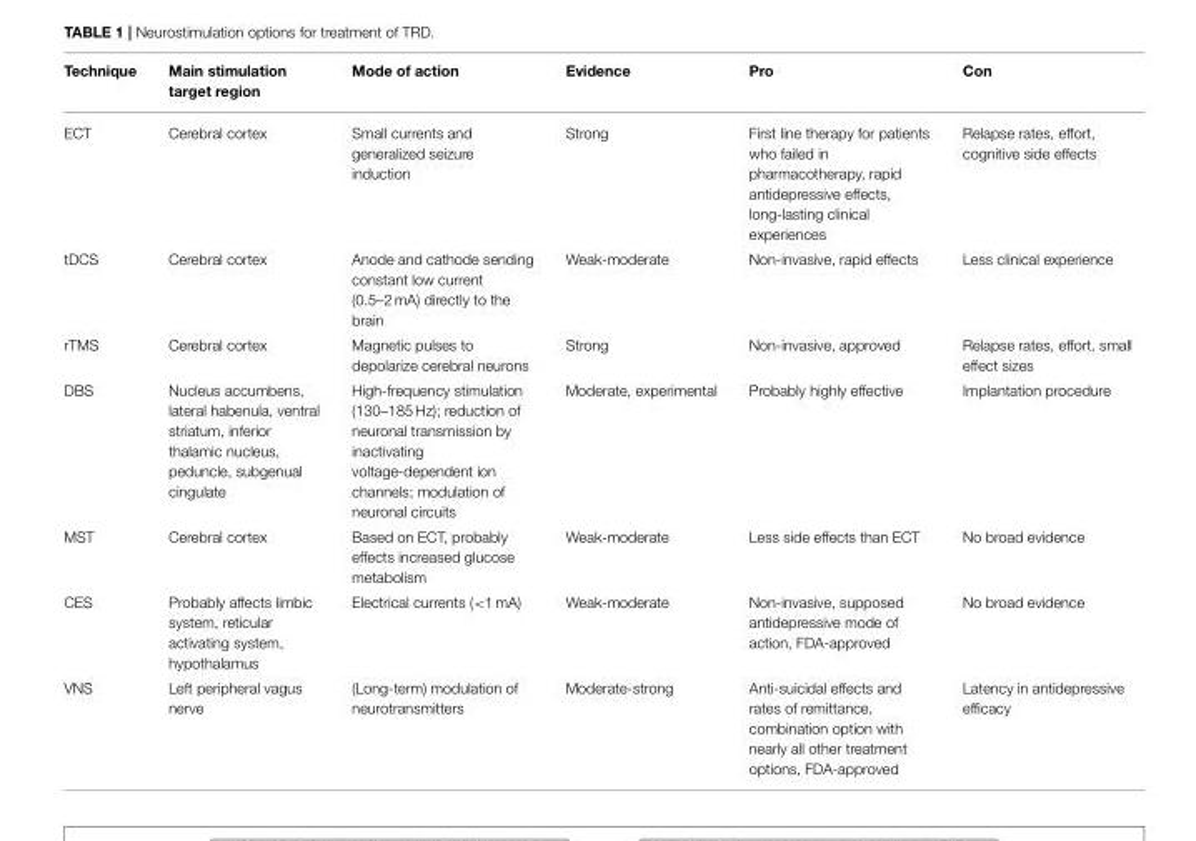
<table><thead><tr><td>Technique</td><td>Main stimulation target region</td><td>Mode of action</td><td>Evidence</td><td>Pro</td><td>Con</td></tr></thead><tbody><tr><td>ECT</td><td>Cerebral cortex</td><td>Small currents and generalized seizure induction</td><td>Strong</td><td>First line therapy for patients who failed in pharmacotherapy, rapid antidepressive effects, long-lasting clinical experiences</td><td>Relapse rates, effort, cognitive side effects</td></tr><tr><td>tDCS</td><td>Cerebral cortex</td><td>Anode and cathode sending constant low current (0.5–2 mA) directly to the brain</td><td>Weak-moderate</td><td>Non-invasive, rapid effects</td><td>Less clinical experience</td></tr><tr><td>rTMS</td><td>Cerebral cortex</td><td>Magnetic pulses to depolarize cerebral neurons</td><td>Strong</td><td>Non-invasive, approved</td><td>Relapse rates, effort, small effect sizes</td></tr><tr><td>DBS</td><td>Nucleus accumbens, lateral habenula, ventral striatum, inferior thalamic nucleus, peduncle, subgenual cingulate</td><td>High-frequency stimulation (130–185 Hz); reduction of neuronal transmission by inactivating voltage-dependent ion channels; modulation of neuronal circuits</td><td>Moderate, experimental</td><td>Probably highly effective</td><td>Implantation procedure</td></tr><tr><td>MST</td><td>Cerebral cortex</td><td>Based on ECT, probably effects increased glucose metabolism</td><td>Weak-moderate</td><td>Less side effects than ECT</td><td>No broad evidence</td></tr><tr><td>CES</td><td>Probably affects limbic system, reticular activating system, hypothalamus</td><td>Electrical currents (&lt;1 mA)</td><td>Weak-moderate</td><td>Non-invasive, supposed antidepressive mode of action, FDA-approved</td><td>No broad evidence</td></tr><tr><td>VNS</td><td>Left peripheral vagus nerve</td><td>(Long-term) modulation of neurotransmitters</td><td>Moderate-strong</td><td>Anti-suicidal effects and rates of remittance, combination option with nearly all other treatment options, FDA-approved</td><td>Latency in antidepressive efficacy</td></tr></tbody></table>